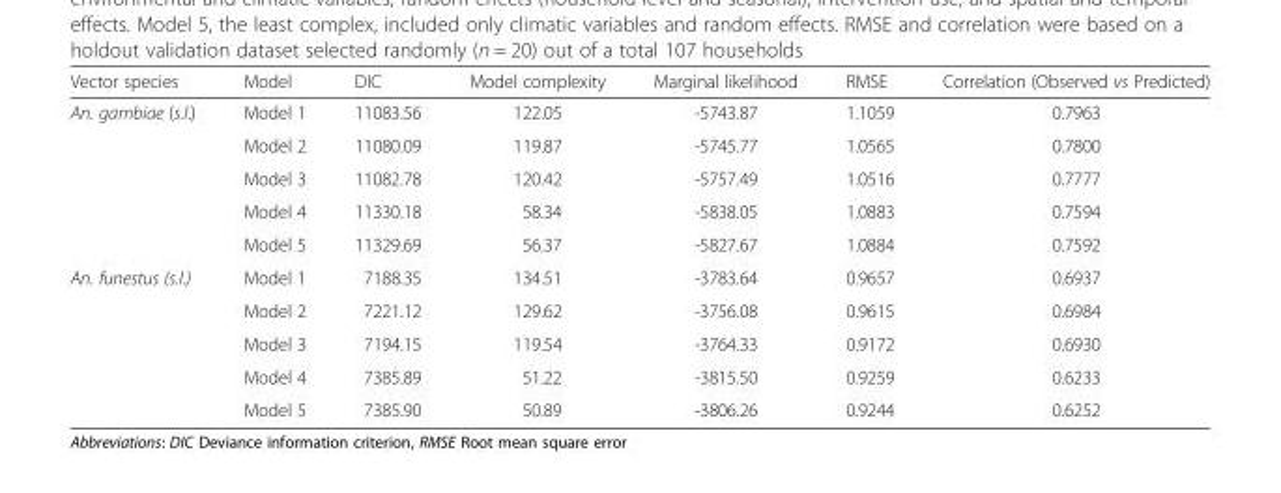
<table><thead><tr><td>Vector species</td><td>Model</td><td>DIC</td><td>Model complexity</td><td>Marginal likelihood</td><td>RMSE</td><td>Correlation (Observed vs Predicted)</td></tr></thead><tbody><tr><td rowspan="5">An. gambiae (s.l.)</td><td>Model 1</td><td>11083.56</td><td>122.05</td><td>-5743.87</td><td>1.1059</td><td>0.7963</td></tr><tr><td>Model 2</td><td>11080.09</td><td>119.87</td><td>-5745.77</td><td>1.0565</td><td>0.7800</td></tr><tr><td>Model 3</td><td>11082.78</td><td>120.42</td><td>-5757.49</td><td>1.0516</td><td>0.7777</td></tr><tr><td>Model 4</td><td>11330.18</td><td>58.34</td><td>-5838.05</td><td>1.0883</td><td>0.7594</td></tr><tr><td>Model 5</td><td>11329.69</td><td>56.37</td><td>-5827.67</td><td>1.0884</td><td>0.7592</td></tr><tr><td rowspan="5">An. funestus (s.l.)</td><td>Model 1</td><td>7188.35</td><td>134.51</td><td>-3783.64</td><td>0.9657</td><td>0.6937</td></tr><tr><td>Model 2</td><td>7221.12</td><td>129.62</td><td>-3756.08</td><td>0.9615</td><td>0.6984</td></tr><tr><td>Model 3</td><td>7194.15</td><td>119.54</td><td>-3764.33</td><td>0.9172</td><td>0.6930</td></tr><tr><td>Model 4</td><td>7385.89</td><td>51.22</td><td>-3815.50</td><td>0.9259</td><td>0.6233</td></tr><tr><td>Model 5</td><td>7385.90</td><td>50.89</td><td>-3806.26</td><td>0.9244</td><td>0.6252</td></tr></tbody></table>